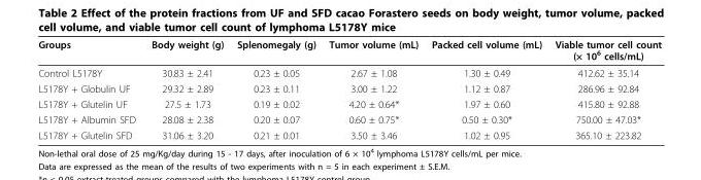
<table><thead><tr><td>Groups</td><td>Body weight (g)</td><td>Splenomegaly (g)</td><td>Tumor volume (mL)</td><td>Packed cell volume (mL)</td><td>Viable tumor cell count (× 10<sup>6</sup> cells/mL)</td></tr></thead><tbody><tr><td>Control L5178Y</td><td>30.83 ± 2.41</td><td>0.23 ± 0.05</td><td>2.67 ± 1.08</td><td>1.30 ± 0.49</td><td>412.62 ± 35.14</td></tr><tr><td>L5178Y + Globulin UF</td><td>29.32 ± 2.89</td><td>0.23 ± 0.11</td><td>3.00 ± 1.22</td><td>1.12 ± 0.87</td><td>286.96 ± 92.84</td></tr><tr><td>L5178Y + Glutelin UF</td><td>27.5 ± 1.73</td><td>0.19 ± 0.02</td><td>4.20 ± 0.64*</td><td>1.97 ± 0.60</td><td>415.80 ± 92.88</td></tr><tr><td>L5178Y + Albumin SFD</td><td>28.08 ± 2.38</td><td>0.20 ± 0.07</td><td>0.60 ± 0.75*</td><td>0.50 ± 0.30*</td><td>750.00 ± 47.03*</td></tr><tr><td>L5178Y + Glutelin SFD</td><td>31.06 ± 3.20</td><td>0.21 ± 0.01</td><td>3.50 ± 3.46</td><td>1.02 ± 0.95</td><td>365.10 ± 223.82</td></tr></tbody></table>